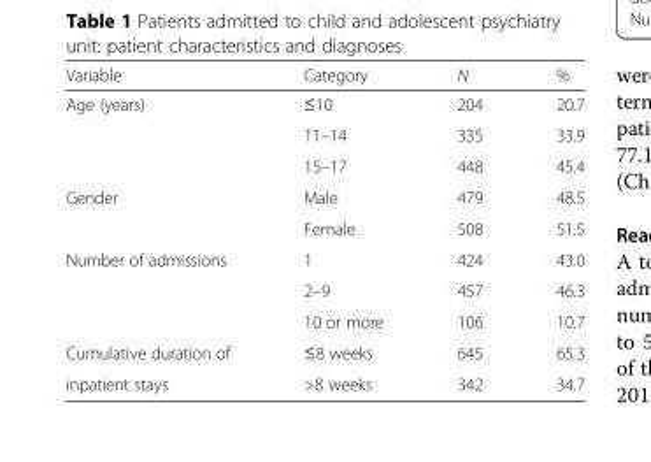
<table><thead><tr><td>Variable</td><td>Category</td><td>N</td><td>%</td></tr></thead><tbody><tr><td rowspan="3">Age (years)</td><td>≤10</td><td>204</td><td>20.7</td></tr><tr><td>11–14</td><td>335</td><td>33.9</td></tr><tr><td>15–17</td><td>448</td><td>45.4</td></tr><tr><td rowspan="2">Gender</td><td>Male</td><td>479</td><td>48.5</td></tr><tr><td>Female</td><td>508</td><td>51.5</td></tr><tr><td rowspan="3">Number of admissions</td><td>1</td><td>424</td><td>43.0</td></tr><tr><td>2–9</td><td>457</td><td>46.3</td></tr><tr><td>10 or more</td><td>106</td><td>10.7</td></tr><tr><td>Cumulative duration of</td><td>≤8 weeks</td><td>645</td><td>65.3</td></tr><tr><td>inpatient stays</td><td>&gt;8 weeks</td><td>342</td><td>34.7</td></tr></tbody></table>